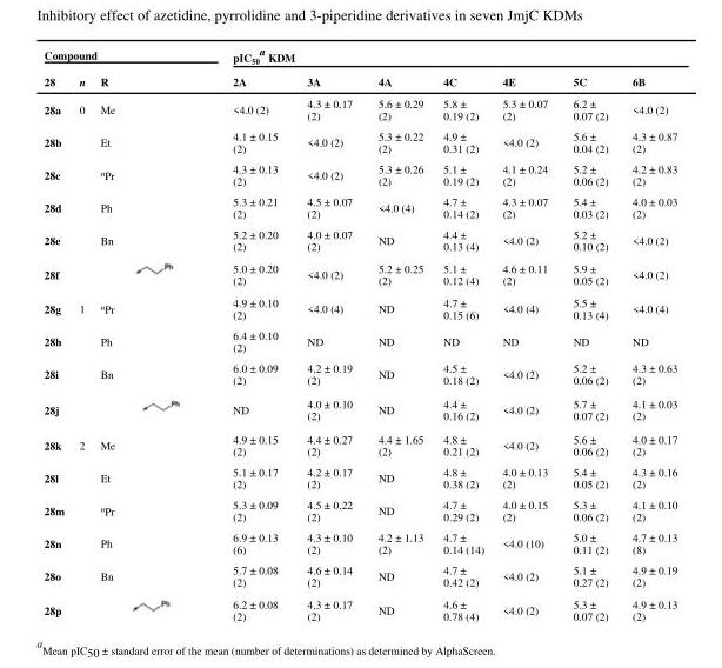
<table><thead><tr><td colspan="3">Compound</td><td colspan="7">pIC<sub>50</sub><sup>a</sup> KDM</td></tr><tr><td>28</td><td>n</td><td>R</td><td>2A</td><td>3A</td><td>4A</td><td>4C</td><td>4E</td><td>5C</td><td>6B</td></tr></thead><tbody><tr><td>28a</td><td>0</td><td>Me</td><td>&lt;4.0 (2)</td><td>4.3 ± 0.17 (2)</td><td>5.6 ± 0.29 (2)</td><td>5.8 ± 0.19 (2)</td><td>5.3 ± 0.07 (2)</td><td>6.2 ± 0.07 (2)</td><td>&lt;4.0 (2)</td></tr><tr><td>28b</td><td></td><td>Et</td><td>4.1 ± 0.15 (2)</td><td>&lt;4.0 (2)</td><td>5.3 ± 0.22 (2)</td><td>4.9 ± 0.31 (2)</td><td>&lt;4.0 (2)</td><td>5.6 ± 0.04 (2)</td><td>4.3 ± 0.87 (2)</td></tr><tr><td>28c</td><td></td><td><sup>n</sup>Pr</td><td>4.3 ± 0.13 (2)</td><td>&lt;4.0 (2)</td><td>5.3 ± 0.26 (2)</td><td>5.1 ± 0.19 (2)</td><td>4.1 ± 0.24 (2)</td><td>5.2 ± 0.06 (2)</td><td>4.2 ± 0.83 (2)</td></tr><tr><td>28d</td><td></td><td>Ph</td><td>5.3 ± 0.21 (2)</td><td>4.5 ± 0.07 (2)</td><td>&lt;4.0 (4)</td><td>4.7 ± 0.14 (2)</td><td>4.3 ± 0.07 (2)</td><td>5.4 ± 0.03 (2)</td><td>4.0 ± 0.03 (2)</td></tr><tr><td>28e</td><td></td><td>Bn</td><td>5.2 ± 0.20 (2)</td><td>4.0 ± 0.07 (2)</td><td>ND</td><td>4.4 ± 0.13 (4)</td><td>&lt;4.0 (2)</td><td>5.2 ± 0.10 (2)</td><td>&lt;4.0 (2)</td></tr><tr><td>28f</td><td></td><td></td><td>5.0 ± 0.20 (2)</td><td>&lt;4.0 (2)</td><td>5.2 ± 0.25 (2)</td><td>5.1 ± 0.12 (4)</td><td>4.6 ± 0.11 (2)</td><td>5.9 ± 0.05 (2)</td><td>&lt;4.0 (2)</td></tr><tr><td>28g</td><td>1</td><td><sup>n</sup>Pr</td><td>4.9 ± 0.10 (2)</td><td>&lt;4.0 (4)</td><td>ND</td><td>4.7 ± 0.15 (6)</td><td>&lt;4.0 (4)</td><td>5.5 ± 0.13 (4)</td><td>&lt;4.0 (4)</td></tr><tr><td>28h</td><td></td><td>Ph</td><td>6.4 ± 0.10 (2)</td><td>ND</td><td>ND</td><td>ND</td><td>ND</td><td>ND</td><td>ND</td></tr><tr><td>28i</td><td></td><td>Bn</td><td>6.0 ± 0.09 (2)</td><td>4.2 ± 0.19 (2)</td><td>ND</td><td>4.5 ± 0.18 (2)</td><td>&lt;4.0 (2)</td><td>5.2 ± 0.06 (2)</td><td>4.3 ± 0.63 (2)</td></tr><tr><td>28j</td><td></td><td></td><td>ND</td><td>4.0 ± 0.10 (2)</td><td>ND</td><td>4.4 ± 0.16 (2)</td><td>&lt;4.0 (2)</td><td>5.7 ± 0.07 (2)</td><td>4.1 ± 0.03 (2)</td></tr><tr><td>28k</td><td>2</td><td>Me</td><td>4.9 ± 0.15 (2)</td><td>4.4 ± 0.27 (2)</td><td>4.4 ± 1.65 (2)</td><td>4.8 ± 0.21 (2)</td><td>&lt;4.0 (2)</td><td>5.6 ± 0.06 (2)</td><td>4.0 ± 0.17 (2)</td></tr><tr><td>28l</td><td></td><td>Et</td><td>5.1 ± 0.17 (2)</td><td>4.2 ± 0.17 (2)</td><td>ND</td><td>4.8 ± 0.38 (2)</td><td>4.0 ± 0.13 (2)</td><td>5.4 ± 0.05 (2)</td><td>4.3 ± 0.16 (2)</td></tr><tr><td>28m</td><td></td><td><sup>n</sup>Pr</td><td>5.3 ± 0.09 (2)</td><td>4.5 ± 0.22 (2)</td><td>ND</td><td>4.7 ± 0.29 (2)</td><td>4.0 ± 0.15 (2)</td><td>5.3 ± 0.06 (2)</td><td>4.1 ± 0.10 (2)</td></tr><tr><td>28n</td><td></td><td>Ph</td><td>6.9 ± 0.13 (6)</td><td>4.3 ± 0.10 (2)</td><td>4.2 ± 1.13 (2)</td><td>4.7 ± 0.14 (14)</td><td>&lt;4.0 (10)</td><td>5.0 ± 0.11 (2)</td><td>4.7 ± 0.13 (8)</td></tr><tr><td>28o</td><td></td><td>Bn</td><td>5.7 ± 0.08 (2)</td><td>4.6 ± 0.14 (2)</td><td>ND</td><td>4.7 ± 0.42 (2)</td><td>&lt;4.0 (2)</td><td>5.1 ± 0.27 (2)</td><td>4.9 ± 0.19 (2)</td></tr><tr><td>28p</td><td></td><td></td><td>6.2 ± 0.08 (2)</td><td>4.3 ± 0.17 (2)</td><td>ND</td><td>4.6 ± 0.78 (4)</td><td>&lt;4.0 (2)</td><td>5.3 ± 0.07 (2)</td><td>4.9 ± 0.13 (2)</td></tr></tbody></table>